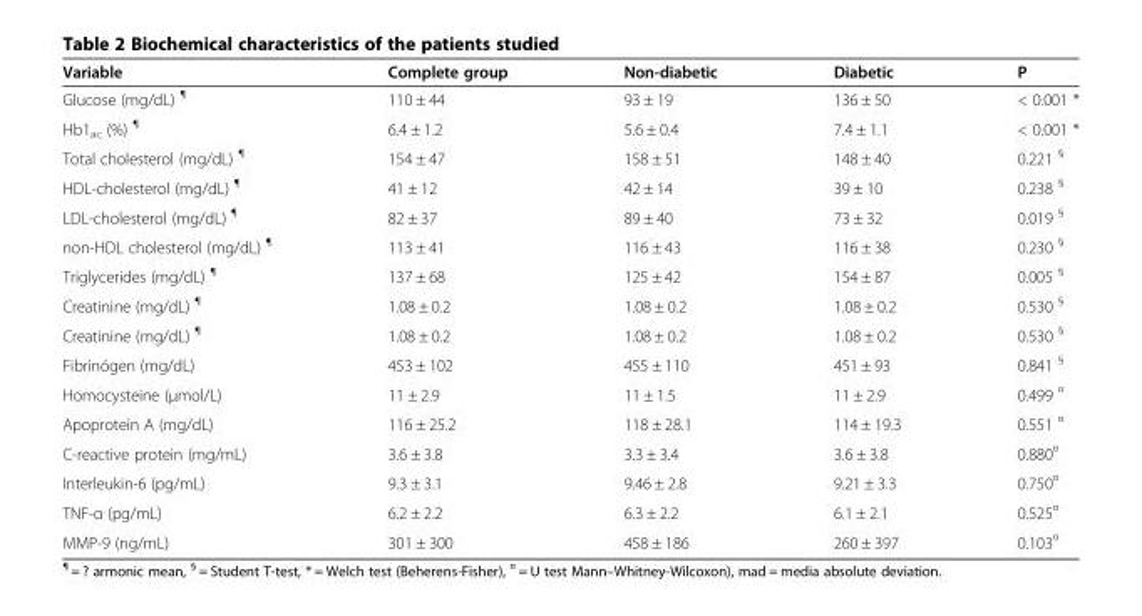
<table><thead><tr><td>Variable</td><td>Complete group</td><td>Non-diabetic</td><td>Diabetic</td><td>P</td></tr></thead><tbody><tr><td>Glucose (mg/dL) <sup>¶</sup></td><td>110 ± 44</td><td>93 ± 19</td><td>136 ± 50</td><td>&lt; 0.001 *</td></tr><tr><td>Hb1<sub>ac</sub> (%) <sup>¶</sup></td><td>6.4 ± 1.2</td><td>5.6 ± 0.4</td><td>7.4 ± 1.1</td><td>&lt; 0.001 *</td></tr><tr><td>Total cholesterol (mg/dL) <sup>¶</sup></td><td>154 ± 47</td><td>158 ± 51</td><td>148 ± 40</td><td>0.221 <sup>§</sup></td></tr><tr><td>HDL-cholesterol (mg/dL) <sup>¶</sup></td><td>41 ± 12</td><td>42 ± 14</td><td>39 ± 10</td><td>0.238 <sup>§</sup></td></tr><tr><td>LDL-cholesterol (mg/dL) <sup>¶</sup></td><td>82 ± 37</td><td>89 ± 40</td><td>73 ± 32</td><td>0.019 <sup>§</sup></td></tr><tr><td>non-HDL cholesterol (mg/dL) <sup>¶</sup></td><td>113 ± 41</td><td>116 ± 43</td><td>116 ± 38</td><td>0.230 <sup>§</sup></td></tr><tr><td>Triglycerides (mg/dL) <sup>¶</sup></td><td>137 ± 68</td><td>125 ± 42</td><td>154 ± 87</td><td>0.005 <sup>§</sup></td></tr><tr><td>Creatinine (mg/dL) <sup>¶</sup></td><td>1.08 ± 0.2</td><td>1.08 ± 0.2</td><td>1.08 ± 0.2</td><td>0.530 <sup>§</sup></td></tr><tr><td>Creatinine (mg/dL) <sup>¶</sup></td><td>1.08 ± 0.2</td><td>1.08 ± 0.2</td><td>1.08 ± 0.2</td><td>0.530 <sup>§</sup></td></tr><tr><td>Fibrinógen (mg/dL)</td><td>453 ± 102</td><td>455 ± 110</td><td>451 ± 93</td><td>0.841 <sup>§</sup></td></tr><tr><td>Homocysteine (μmol/L)</td><td>11 ± 2.9</td><td>11 ± 1.5</td><td>11 ± 2.9</td><td>0.499 <sup>¤</sup></td></tr><tr><td>Apoprotein A (mg/dL)</td><td>116 ± 25.2</td><td>118 ± 28.1</td><td>114 ± 19.3</td><td>0.551 <sup>¤</sup></td></tr><tr><td>C-reactive protein (mg/mL)</td><td>3.6 ± 3.8</td><td>3.3 ± 3.4</td><td>3.6 ± 3.8</td><td>0.880<sup>¤</sup></td></tr><tr><td>Interleukin-6 (pg/mL)</td><td>9.3 ± 3.1</td><td>9.46 ± 2.8</td><td>9.21 ± 3.3</td><td>0.750<sup>¤</sup></td></tr><tr><td>TNF-α (pg/mL)</td><td>6.2 ± 2.2</td><td>6.3 ± 2.2</td><td>6.1 ± 2.1</td><td>0.525<sup>¤</sup></td></tr><tr><td>MMP-9 (ng/mL)</td><td>301 ± 300</td><td>458 ± 186</td><td>260 ± 397</td><td>0.103<sup>¤</sup></td></tr></tbody></table>